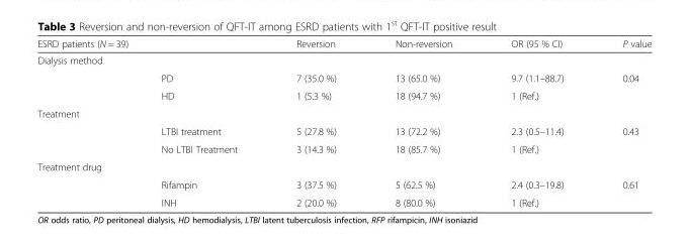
<table><thead><tr><td colspan="2">ESRD patients (N = 39)</td><td rowspan="2">Reversion</td><td rowspan="2">Non-reversion</td><td rowspan="2">OR (95 % CI)</td><td rowspan="2">P value</td></tr><tr><td>Dialysis method</td><td></td></tr></thead><tbody><tr><td></td><td>PD</td><td>7 (35.0 %)</td><td>13 (65.0 %)</td><td>9.7 (1.1–88.7)</td><td>0.04</td></tr><tr><td></td><td>HD</td><td>1 (5.3 %)</td><td>18 (94.7 %)</td><td>1 (Ref.)</td><td></td></tr><tr><td colspan="6">Treatment</td></tr><tr><td></td><td>LTBI treatment</td><td>5 (27.8 %)</td><td>13 (72.2 %)</td><td>2.3 (0.5–11.4)</td><td>0.43</td></tr><tr><td></td><td>No LTBI Treatment</td><td>3 (14.3 %)</td><td>18 (85.7 %)</td><td>1 (Ref.)</td><td></td></tr><tr><td colspan="6">Treatment drug</td></tr><tr><td></td><td>Rifampin</td><td>3 (37.5 %)</td><td>5 (62.5 %)</td><td>2.4 (0.3–19.8)</td><td>0.61</td></tr><tr><td></td><td>INH</td><td>2 (20.0 %)</td><td>8 (80.0 %)</td><td>1 (Ref.)</td><td></td></tr></tbody></table>